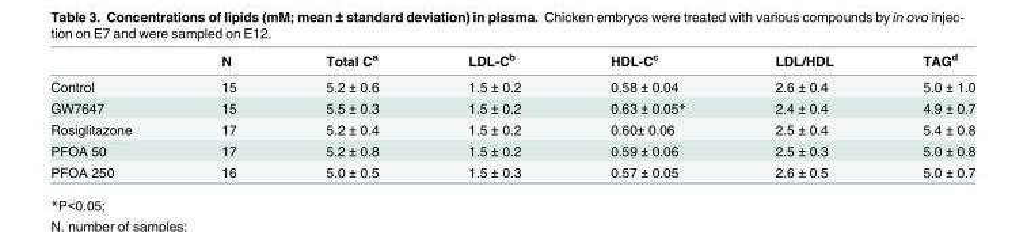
<table><thead><tr><td></td><td>N</td><td>Total C<sup>a</sup></td><td>LDL-C<sup>b</sup></td><td>HDL-C<sup>c</sup></td><td>LDL/HDL</td><td>TAG<sup>d</sup></td></tr></thead><tbody><tr><td>Control</td><td>15</td><td>5.2 ± 0.6</td><td>1.5 ± 0.2</td><td>0.58 ± 0.04</td><td>2.6 ± 0.4</td><td>5.0 ± 1.0</td></tr><tr><td>GW7647</td><td>15</td><td>5.5 ± 0.3</td><td>1.5 ± 0.2</td><td>0.63 ± 0.05*</td><td>2.4 ± 0.4</td><td>4.9 ± 0.7</td></tr><tr><td>Rosiglitazone</td><td>17</td><td>5.2 ± 0.4</td><td>1.5 ± 0.2</td><td>0.60± 0.06</td><td>2.5 ± 0.4</td><td>5.4 ± 0.8</td></tr><tr><td>PFOA 50</td><td>17</td><td>5.2 ± 0.8</td><td>1.5 ± 0.2</td><td>0.59 ± 0.06</td><td>2.5 ± 0.3</td><td>5.0 ± 0.8</td></tr><tr><td>PFOA 250</td><td>16</td><td>5.0 ± 0.5</td><td>1.5 ± 0.3</td><td>0.57 ± 0.05</td><td>2.6 ± 0.5</td><td>5.0 ± 0.7</td></tr></tbody></table>